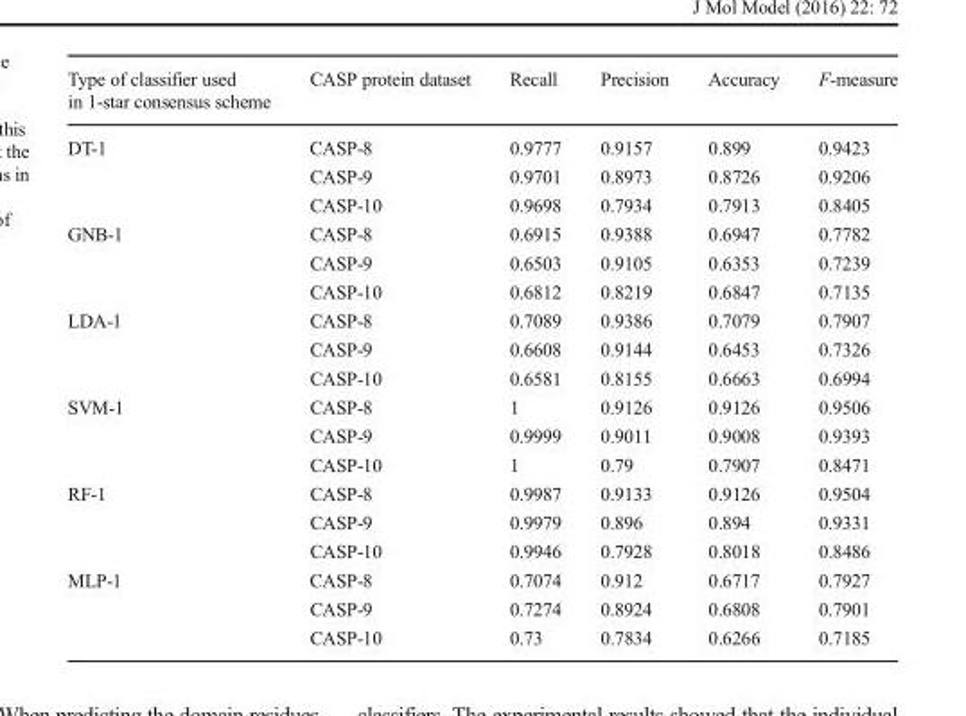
<table><thead><tr><td>Type of classifier used in 1-star consensus scheme</td><td>CASP protein dataset</td><td>Recall</td><td>Precision</td><td>Accuracy</td><td>F-measure</td></tr></thead><tbody><tr><td rowspan="3">DT-1</td><td>CASP-8</td><td>0.9777</td><td>0.9157</td><td>0.899</td><td>0.9423</td></tr><tr><td>CASP-9</td><td>0.9701</td><td>0.8973</td><td>0.8726</td><td>0.9206</td></tr><tr><td>CASP-10</td><td>0.9698</td><td>0.7934</td><td>0.7913</td><td>0.8405</td></tr><tr><td rowspan="3">GNB-1</td><td>CASP-8</td><td>0.6915</td><td>0.9388</td><td>0.6947</td><td>0.7782</td></tr><tr><td>CASP-9</td><td>0.6503</td><td>0.9105</td><td>0.6353</td><td>0.7239</td></tr><tr><td>CASP-10</td><td>0.6812</td><td>0.8219</td><td>0.6847</td><td>0.7135</td></tr><tr><td rowspan="3">LDA-1</td><td>CASP-8</td><td>0.7089</td><td>0.9386</td><td>0.7079</td><td>0.7907</td></tr><tr><td>CASP-9</td><td>0.6608</td><td>0.9144</td><td>0.6453</td><td>0.7326</td></tr><tr><td>CASP-10</td><td>0.6581</td><td>0.8155</td><td>0.6663</td><td>0.6994</td></tr><tr><td rowspan="3">SVM-1</td><td>CASP-8</td><td>1</td><td>0.9126</td><td>0.9126</td><td>0.9506</td></tr><tr><td>CASP-9</td><td>0.9999</td><td>0.9011</td><td>0.9008</td><td>0.9393</td></tr><tr><td>CASP-10</td><td>1</td><td>0.79</td><td>0.7907</td><td>0.8471</td></tr><tr><td rowspan="3">RF-1</td><td>CASP-8</td><td>0.9987</td><td>0.9133</td><td>0.9126</td><td>0.9504</td></tr><tr><td>CASP-9</td><td>0.9979</td><td>0.896</td><td>0.894</td><td>0.9331</td></tr><tr><td>CASP-10</td><td>0.9946</td><td>0.7928</td><td>0.8018</td><td>0.8486</td></tr><tr><td rowspan="3">MLP-1</td><td>CASP-8</td><td>0.7074</td><td>0.912</td><td>0.6717</td><td>0.7927</td></tr><tr><td>CASP-9</td><td>0.7274</td><td>0.8924</td><td>0.6808</td><td>0.7901</td></tr><tr><td>CASP-10</td><td>0.73</td><td>0.7834</td><td>0.6266</td><td>0.7185</td></tr></tbody></table>